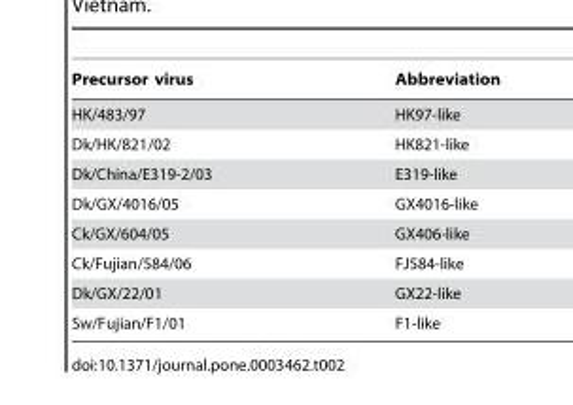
<table><thead><tr><td>Precursor virus</td><td>Abbreviation</td></tr></thead><tbody><tr><td>HK/483/97</td><td>HK97-like</td></tr><tr><td>Dk/HK/821/02</td><td>HK821-like</td></tr><tr><td>Dk/China/E319-2/03</td><td>E319-like</td></tr><tr><td>Dk/GX/4016/05</td><td>GX4016-like</td></tr><tr><td>Ck/GX/604/05</td><td>GX406-like</td></tr><tr><td>Ck/Fujian/584/06</td><td>FJ584-like</td></tr><tr><td>Dk/GX/22/01</td><td>GX22-like</td></tr><tr><td>Sw/Fujian/F1/01</td><td>F1-like</td></tr></tbody></table>